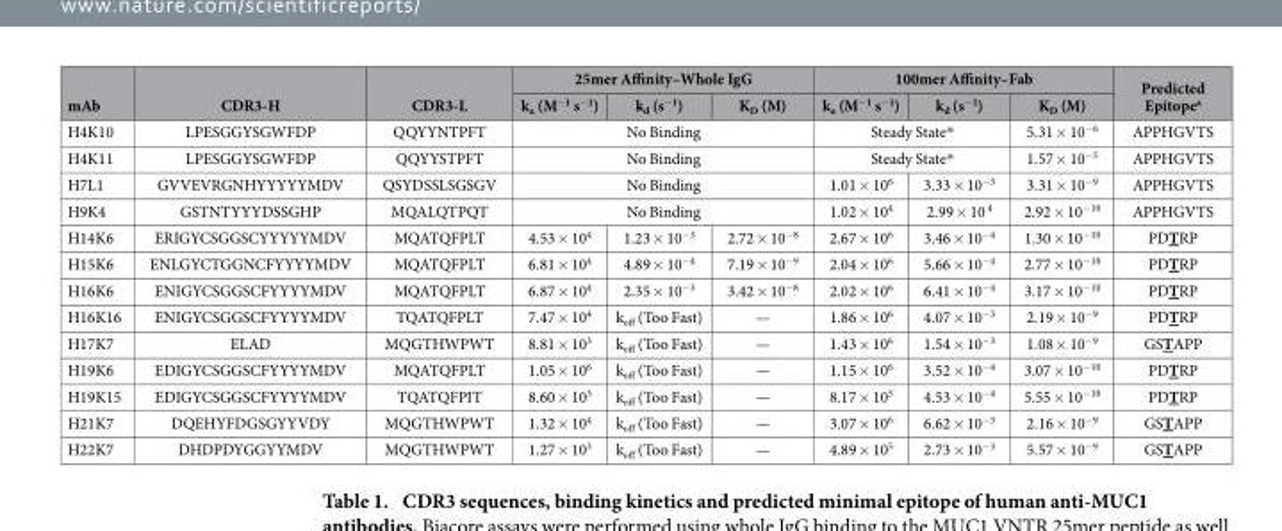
<table><thead><tr><td rowspan="2">mAb</td><td rowspan="2">CDR3-H</td><td rowspan="2">CDR3-L</td><td colspan="3">25mer Affinity–Whole IgG</td><td colspan="3">100mer Affinity–Fab</td><td rowspan="2">Predicted Epitope<sup>a</sup></td></tr><tr><td>k<sub>a</sub> (M<sup>−1</sup> s<sup>−1</sup>)</td><td>k<sub>d</sub> (s<sup>−1</sup>)</td><td>K<sub>D</sub> (M)</td><td>k<sub>a</sub> (M<sup>−1</sup> s<sup>−1</sup>)</td><td>k<sub>d</sub> (s<sup>−1</sup>)</td><td>K<sub>D</sub> (M)</td></tr></thead><tbody><tr><td>H4K10</td><td>LPESGGYSGWFDP</td><td>QQYYNTPFT</td><td colspan="3">No Binding</td><td colspan="2">Steady State*</td><td>5.31 × 10<sup>−6</sup></td><td>APPHGVTS</td></tr><tr><td>H4K11</td><td>LPESGGYSGWFDP</td><td>QQYYSTPFT</td><td colspan="3">No Binding</td><td colspan="2">Steady State*</td><td>1.57 × 10<sup>−5</sup></td><td>APPHGVTS</td></tr><tr><td>H7L1</td><td>GVVEVRGNHYYYYYMDV</td><td>QSYDSSLSGSGV</td><td colspan="3">No Binding</td><td>1.01 × 10<sup>6</sup></td><td>3.33 × 10<sup>−3</sup></td><td>3.31 × 10<sup>−9</sup></td><td>APPHGVTS</td></tr><tr><td>H9K4</td><td>GSTNTYYYDSSGHP</td><td>MQALQTPQT</td><td colspan="3">No Binding</td><td>1.02 × 10<sup>4</sup></td><td>2.99 × 10 <sup>4</sup></td><td>2.92 × 10<sup>−10</sup></td><td>APPHGVTS</td></tr><tr><td>H14K6</td><td>ERIGYCSGGSCYYYYYMDV</td><td>MQATQFPLT</td><td>4.53 × 10<sup>4</sup></td><td>1.23 × 10<sup>−3</sup></td><td>2.72 × 10<sup>−8</sup></td><td>2.67 × 10<sup>6</sup></td><td>3.46 × 10<sup>−4</sup></td><td>1.30 × 10<sup>−10</sup></td><td>PDTRP</td></tr><tr><td>H15K6</td><td>ENLGYCTGGNCFYYYYMDV</td><td>MQATQFPLT</td><td>6.81 × 10<sup>4</sup></td><td>4.89 × 10<sup>−4</sup></td><td>7.19 × 10<sup>−9</sup></td><td>2.04 × 10<sup>6</sup></td><td>5.66 × 10<sup>−4</sup></td><td>2.77 × 10<sup>−10</sup></td><td>PDTRP</td></tr><tr><td>H16K6</td><td>ENIGYCSGGSCFYYYYMDV</td><td>MQATQFPLT</td><td>6.87 × 10<sup>4</sup></td><td>2.35 × 10<sup>−3</sup></td><td>3.42 × 10<sup>−8</sup></td><td>2.02 × 10<sup>6</sup></td><td>6.41 × 10<sup>−4</sup></td><td>3.17 × 10<sup>−10</sup></td><td>PDTRP</td></tr><tr><td>H16K16</td><td>ENIGYCSGGSCFYYYYMDV</td><td>TQATQFPLT</td><td>7.47 × 10<sup>4</sup></td><td>k<sub>off</sub> (Too Fast)</td><td>—</td><td>1.86 × 10<sup>6</sup></td><td>4.07 × 10<sup>−3</sup></td><td>2.19 × 10<sup>−9</sup></td><td>PDTRP</td></tr><tr><td>H17K7</td><td>ELAD</td><td>MQGTHWPWT</td><td>8.81 × 10<sup>3</sup></td><td>k<sub>off</sub> (Too Fast)</td><td>—</td><td>1.43 × 10<sup>6</sup></td><td>1.54 × 10<sup>−3</sup></td><td>1.08 × 10<sup>−9</sup></td><td>GSTAPP</td></tr><tr><td>H19K6</td><td>EDIGYCSGGSCFYYYYMDV</td><td>MQATQFPLT</td><td>1.05 × 10<sup>6</sup></td><td>k<sub>off</sub> (Too Fast)</td><td>—</td><td>1.15 × 10<sup>6</sup></td><td>3.52 × 10<sup>−4</sup></td><td>3.07 × 10<sup>−10</sup></td><td>PDTRP</td></tr><tr><td>H19K15</td><td>EDIGYCSGGSCFYYYYMDV</td><td>TQATQFPIT</td><td>8.60 × 10<sup>3</sup></td><td>k<sub>off</sub> (Too Fast)</td><td>—</td><td>8.17 × 10<sup>5</sup></td><td>4.53 × 10<sup>−4</sup></td><td>5.55 × 10<sup>−10</sup></td><td>PDTRP</td></tr><tr><td>H21K7</td><td>DQEHYFDGSGYYVDY</td><td>MQGTHWPWT</td><td>1.32 × 10<sup>4</sup></td><td>k<sub>off</sub> (Too Fast)</td><td>—</td><td>3.07 × 10<sup>6</sup></td><td>6.62 × 10<sup>−3</sup></td><td>2.16 × 10<sup>−9</sup></td><td>GSTAPP</td></tr><tr><td>H22K7</td><td>DHDPDYGGYYMDV</td><td>MQGTHWPWT</td><td>1.27 × 10<sup>3</sup></td><td>k<sub>off</sub> (Too Fast)</td><td>—</td><td>4.89 × 10<sup>5</sup></td><td>2.73 × 10<sup>−3</sup></td><td>5.57 × 10<sup>−9</sup></td><td>GSTAPP</td></tr></tbody></table>